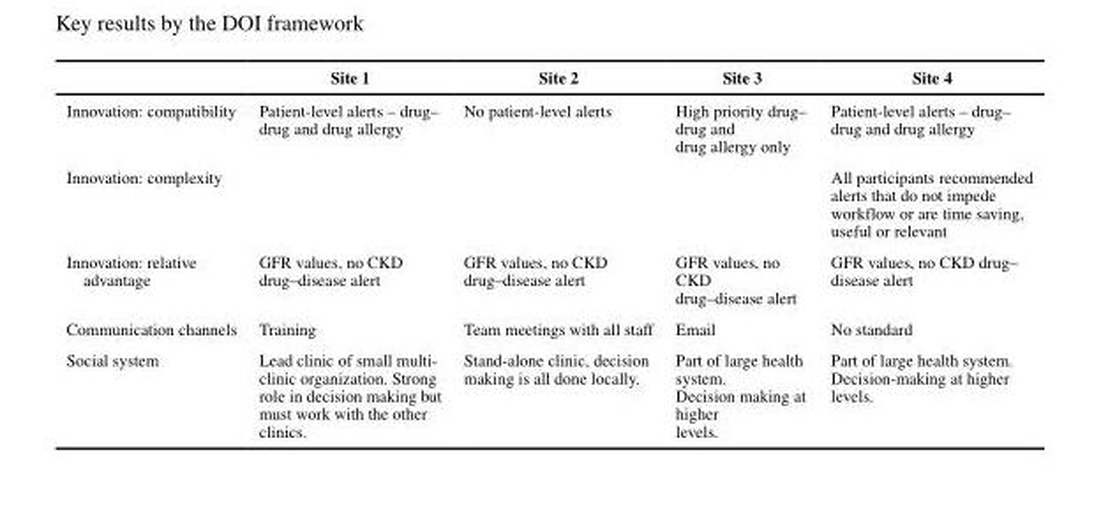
<table><thead><tr><td></td><td>Site 1</td><td>Site 2</td><td>Site 3</td><td>Site 4</td></tr></thead><tbody><tr><td>Innovation: compatibility</td><td>Patient-level alerts – drug– drug and drug allergy</td><td>No patient-level alerts</td><td>High priority drug– drug and drug allergy only</td><td>Patient-level alerts – drug– drug and drug allergy</td></tr><tr><td>Innovation: complexity</td><td></td><td></td><td></td><td>All participants recommended alerts that do not impede workflow or are time saving, useful or relevant</td></tr><tr><td>Innovation: relative advantage</td><td>GFR values, no CKD drug–disease alert</td><td>GFR values, no CKD drug–disease alert</td><td>GFR values, no CKD drug–disease alert</td><td>GFR values, no CKD drug– disease alert</td></tr><tr><td>Communication channels</td><td>Training</td><td>Team meetings with all staff</td><td>Email</td><td>No standard</td></tr><tr><td>Social system</td><td>Lead clinic of small multi- clinic organization. Strong role in decision making but must work with the other clinics.</td><td>Stand-alone clinic, decision making is all done locally.</td><td>Part of large health system. Decision making at higher levels.</td><td>Part of large health system. Decision-making at higher levels.</td></tr></tbody></table>